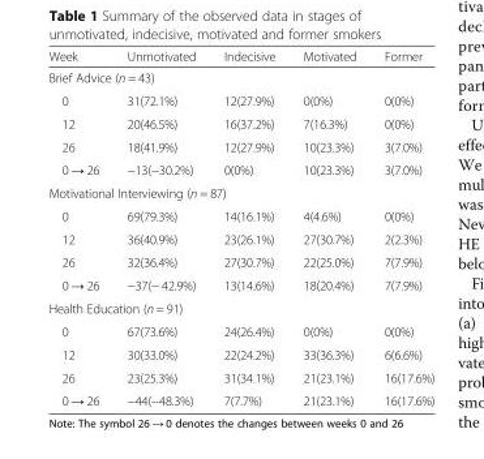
<table><thead><tr><td>Week</td><td>Unmotivated</td><td>Indecisive</td><td>Motivated</td><td>Former</td></tr></thead><tbody><tr><td colspan="5">Brief Advice (n = 43)</td></tr><tr><td>0</td><td>31(72.1%)</td><td>12(27.9%)</td><td>0(0%)</td><td>0(0%)</td></tr><tr><td>12</td><td>20(46.5%)</td><td>16(37.2%)</td><td>7(16.3%)</td><td>0(0%)</td></tr><tr><td>26</td><td>18(41.9%)</td><td>12(27.9%)</td><td>10(23.3%)</td><td>3(7.0%)</td></tr><tr><td>0 → 26</td><td>−13(−30.2%)</td><td>0(0%)</td><td>10(23.3%)</td><td>3(7.0%)</td></tr><tr><td colspan="5">Motivational Interviewing (n = 87)</td></tr><tr><td>0</td><td>69(79.3%)</td><td>14(16.1%)</td><td>4(4.6%)</td><td>0(0%)</td></tr><tr><td>12</td><td>36(40.9%)</td><td>23(26.1%)</td><td>27(30.7%)</td><td>2(2.3%)</td></tr><tr><td>26</td><td>32(36.4%)</td><td>27(30.7%)</td><td>22(25.0%)</td><td>7(7.9%)</td></tr><tr><td>0 → 26</td><td>−37(− 42.9%)</td><td>13(14.6%)</td><td>18(20.4%)</td><td>7(7.9%)</td></tr><tr><td colspan="5">Health Education (n = 91)</td></tr><tr><td>0</td><td>67(73.6%)</td><td>24(26.4%)</td><td>0(0%)</td><td>0(0%)</td></tr><tr><td>12</td><td>30(33.0%)</td><td>22(24.2%)</td><td>33(36.3%)</td><td>6(6.6%)</td></tr><tr><td>26</td><td>23(25.3%)</td><td>31(34.1%)</td><td>21(23.1%)</td><td>16(17.6%)</td></tr><tr><td>0 → 26</td><td>−44(−48.3%)</td><td>7(7.7%)</td><td>21(23.1%)</td><td>16(17.6%)</td></tr></tbody></table>